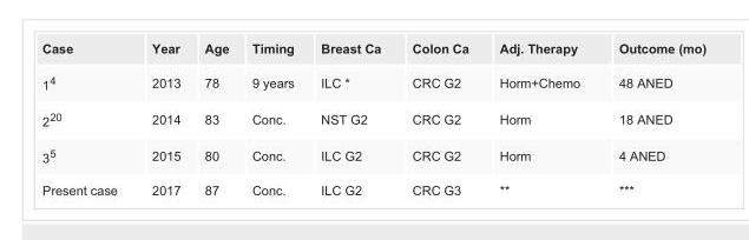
<table><tbody><tr><td>Case</td><td>Year</td><td>Age</td><td>Timing</td><td>Breast Ca</td><td>Colon Ca</td><td>Adj. Therapy</td><td>Outcome (mo)</td></tr><tr><td>1<sup>4</sup></td><td>2013</td><td>78</td><td>9 years</td><td>ILC *</td><td>CRC G2</td><td>Horm+Chemo</td><td>48 ANED</td></tr><tr><td>2<sup>20</sup></td><td>2014</td><td>83</td><td>Conc.</td><td>NST G2</td><td>CRC G2</td><td>Horm</td><td>18 ANED</td></tr><tr><td>3<sup>5</sup></td><td>2015</td><td>80</td><td>Conc.</td><td>ILC G2</td><td>CRC G2</td><td>Horm</td><td>4 ANED</td></tr><tr><td>Present case</td><td>2017</td><td>87</td><td>Conc.</td><td>ILC G2</td><td>CRC G3</td><td>**</td><td>***</td></tr></tbody></table>